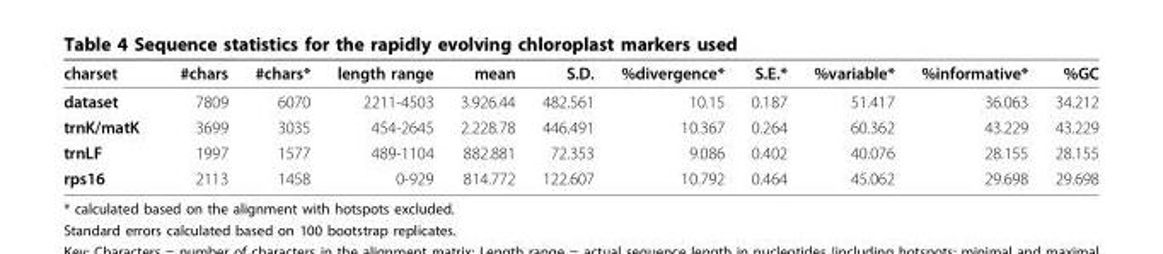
<table><thead><tr><td>charset</td><td>#chars</td><td>#chars*</td><td>length range</td><td>mean</td><td>S.D.</td><td>%divergence*</td><td>S.E.*</td><td>%variable*</td><td>%informative*</td><td>%GC</td></tr></thead><tbody><tr><td>dataset</td><td>7809</td><td>6070</td><td>2211-4503</td><td>3.926.44</td><td>482.561</td><td>10.15</td><td>0.187</td><td>51.417</td><td>36.063</td><td>34.212</td></tr><tr><td>trnK/matK</td><td>3699</td><td>3035</td><td>454-2645</td><td>2.228.78</td><td>446.491</td><td>10.367</td><td>0.264</td><td>60.362</td><td>43.229</td><td>43.229</td></tr><tr><td>trnLF</td><td>1997</td><td>1577</td><td>489-1104</td><td>882.881</td><td>72.353</td><td>9.086</td><td>0.402</td><td>40.076</td><td>28.155</td><td>28.155</td></tr><tr><td>rps16</td><td>2113</td><td>1458</td><td>0-929</td><td>814.772</td><td>122.607</td><td>10.792</td><td>0.464</td><td>45.062</td><td>29.698</td><td>29.698</td></tr></tbody></table>